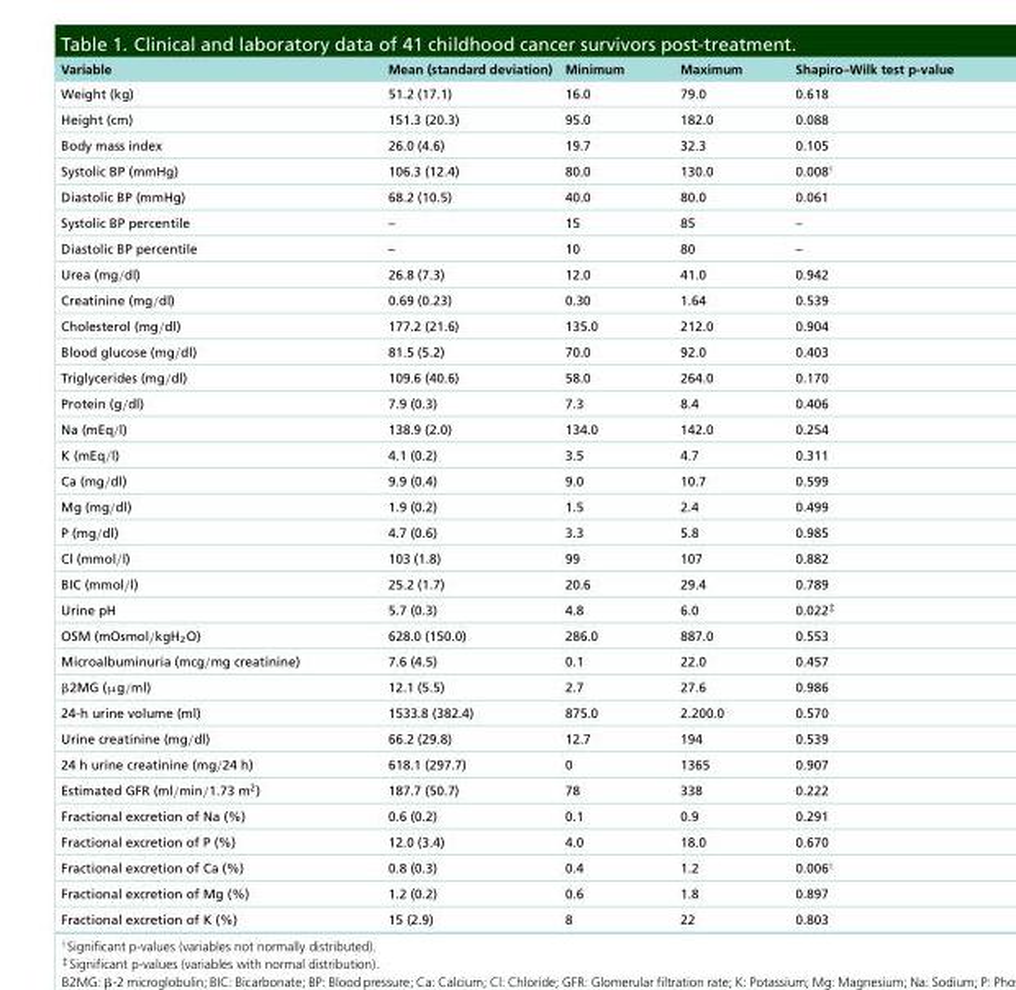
<table><thead><tr><td>Variable</td><td>Mean (standard deviation)</td><td>Minimum</td><td>Maximum</td><td>Shapiro–Wilk test p-value</td></tr></thead><tbody><tr><td>Weight (kg)</td><td>51.2 (17.1)</td><td>16.0</td><td>79.0</td><td>0.618</td></tr><tr><td>Height (cm)</td><td>151.3 (20.3)</td><td>95.0</td><td>182.0</td><td>0.088</td></tr><tr><td>Body mass index</td><td>26.0 (4.6)</td><td>19.7</td><td>32.3</td><td>0.105</td></tr><tr><td>Systolic BP (mmHg)</td><td>106.3 (12.4)</td><td>80.0</td><td>130.0</td><td>0.008<sup>†</sup></td></tr><tr><td>Diastolic BP (mmHg)</td><td>68.2 (10.5)</td><td>40.0</td><td>80.0</td><td>0.061</td></tr><tr><td>Systolic BP percentile</td><td>–</td><td>15</td><td>85</td><td>–</td></tr><tr><td>Diastolic BP percentile</td><td>–</td><td>10</td><td>80</td><td>–</td></tr><tr><td>Urea (mg/dl)</td><td>26.8 (7.3)</td><td>12.0</td><td>41.0</td><td>0.942</td></tr><tr><td>Creatinine (mg/dl)</td><td>0.69 (0.23)</td><td>0.30</td><td>1.64</td><td>0.539</td></tr><tr><td>Cholesterol (mg/dl)</td><td>177.2 (21.6)</td><td>135.0</td><td>212.0</td><td>0.904</td></tr><tr><td>Blood glucose (mg/dl)</td><td>81.5 (5.2)</td><td>70.0</td><td>92.0</td><td>0.403</td></tr><tr><td>Triglycerides (mg/dl)</td><td>109.6 (40.6)</td><td>58.0</td><td>264.0</td><td>0.170</td></tr><tr><td>Protein (g/dl)</td><td>7.9 (0.3)</td><td>7.3</td><td>8.4</td><td>0.406</td></tr><tr><td>Na (mEq/l)</td><td>138.9 (2.0)</td><td>134.0</td><td>142.0</td><td>0.254</td></tr><tr><td>K (mEq/l)</td><td>4.1 (0.2)</td><td>3.5</td><td>4.7</td><td>0.311</td></tr><tr><td>Ca (mg/dl)</td><td>9.9 (0.4)</td><td>9.0</td><td>10.7</td><td>0.599</td></tr><tr><td>Mg (mg/dl)</td><td>1.9 (0.2)</td><td>1.5</td><td>2.4</td><td>0.499</td></tr><tr><td>P (mg/dl)</td><td>4.7 (0.6)</td><td>3.3</td><td>5.8</td><td>0.985</td></tr><tr><td>Cl (mmol/l)</td><td>103 (1.8)</td><td>99</td><td>107</td><td>0.882</td></tr><tr><td>BIC (mmol/l)</td><td>25.2 (1.7)</td><td>20.6</td><td>29.4</td><td>0.789</td></tr><tr><td>Urine pH</td><td>5.7 (0.3)</td><td>4.8</td><td>6.0</td><td>0.022<sup>‡</sup></td></tr><tr><td>OSM (mOsmol/kgH<sub>2</sub>O)</td><td>628.0 (150.0)</td><td>286.0</td><td>887.0</td><td>0.553</td></tr><tr><td>Microalbuminuria (mcg/mg creatinine)</td><td>7.6 (4.5)</td><td>0.1</td><td>22.0</td><td>0.457</td></tr><tr><td>β2MG (μg/ml)</td><td>12.1 (5.5)</td><td>2.7</td><td>27.6</td><td>0.986</td></tr><tr><td>24-h urine volume (ml)</td><td>1533.8 (382.4)</td><td>875.0</td><td>2.200.0</td><td>0.570</td></tr><tr><td>Urine creatinine (mg/dl)</td><td>66.2 (29.8)</td><td>12.7</td><td>194</td><td>0.539</td></tr><tr><td>24 h urine creatinine (mg/24 h)</td><td>618.1 (297.7)</td><td>0</td><td>1365</td><td>0.907</td></tr><tr><td>Estimated GFR (ml/min/1.73 m<sup>2</sup>)</td><td>187.7 (50.7)</td><td>78</td><td>338</td><td>0.222</td></tr><tr><td>Fractional excretion of Na (%)</td><td>0.6 (0.2)</td><td>0.1</td><td>0.9</td><td>0.291</td></tr><tr><td>Fractional excretion of P (%)</td><td>12.0 (3.4)</td><td>4.0</td><td>18.0</td><td>0.670</td></tr><tr><td>Fractional excretion of Ca (%)</td><td>0.8 (0.3)</td><td>0.4</td><td>1.2</td><td>0.006<sup>†</sup></td></tr><tr><td>Fractional excretion of Mg (%)</td><td>1.2 (0.2)</td><td>0.6</td><td>1.8</td><td>0.897</td></tr><tr><td>Fractional excretion of K (%)</td><td>15 (2.9)</td><td>8</td><td>22</td><td>0.803</td></tr></tbody></table>